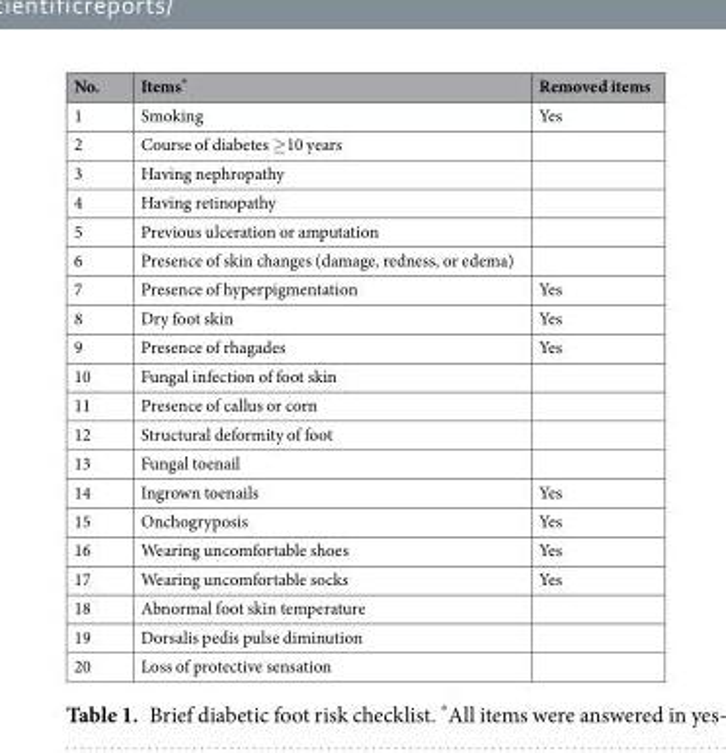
<table><thead><tr><td>No.</td><td>Items*</td><td>Removed items</td></tr></thead><tbody><tr><td>1</td><td>Smoking</td><td>Yes</td></tr><tr><td>2</td><td>Course of diabetes ≥10 years</td><td></td></tr><tr><td>3</td><td>Having nephropathy</td><td></td></tr><tr><td>4</td><td>Having retinopathy</td><td></td></tr><tr><td>5</td><td>Previous ulceration or amputation</td><td></td></tr><tr><td>6</td><td>Presence of skin changes (damage, redness, or edema)</td><td></td></tr><tr><td>7</td><td>Presence of hyperpigmentation</td><td>Yes</td></tr><tr><td>8</td><td>Dry foot skin</td><td>Yes</td></tr><tr><td>9</td><td>Presence of rhagades</td><td>Yes</td></tr><tr><td>10</td><td>Fungal infection of foot skin</td><td></td></tr><tr><td>11</td><td>Presence of callus or corn</td><td></td></tr><tr><td>12</td><td>Structural deformity of foot</td><td></td></tr><tr><td>13</td><td>Fungal toenail</td><td></td></tr><tr><td>14</td><td>Ingrown toenails</td><td>Yes</td></tr><tr><td>15</td><td>Onchogryposis</td><td>Yes</td></tr><tr><td>16</td><td>Wearing uncomfortable shoes</td><td>Yes</td></tr><tr><td>17</td><td>Wearing uncomfortable socks<sup>.</sup></td><td>Yes</td></tr><tr><td>18</td><td>Abnormal foot skin temperature</td><td></td></tr><tr><td>19</td><td>Dorsalis pedis pulse diminution</td><td></td></tr><tr><td>20</td><td>Loss of protective sensation</td><td></td></tr></tbody></table>